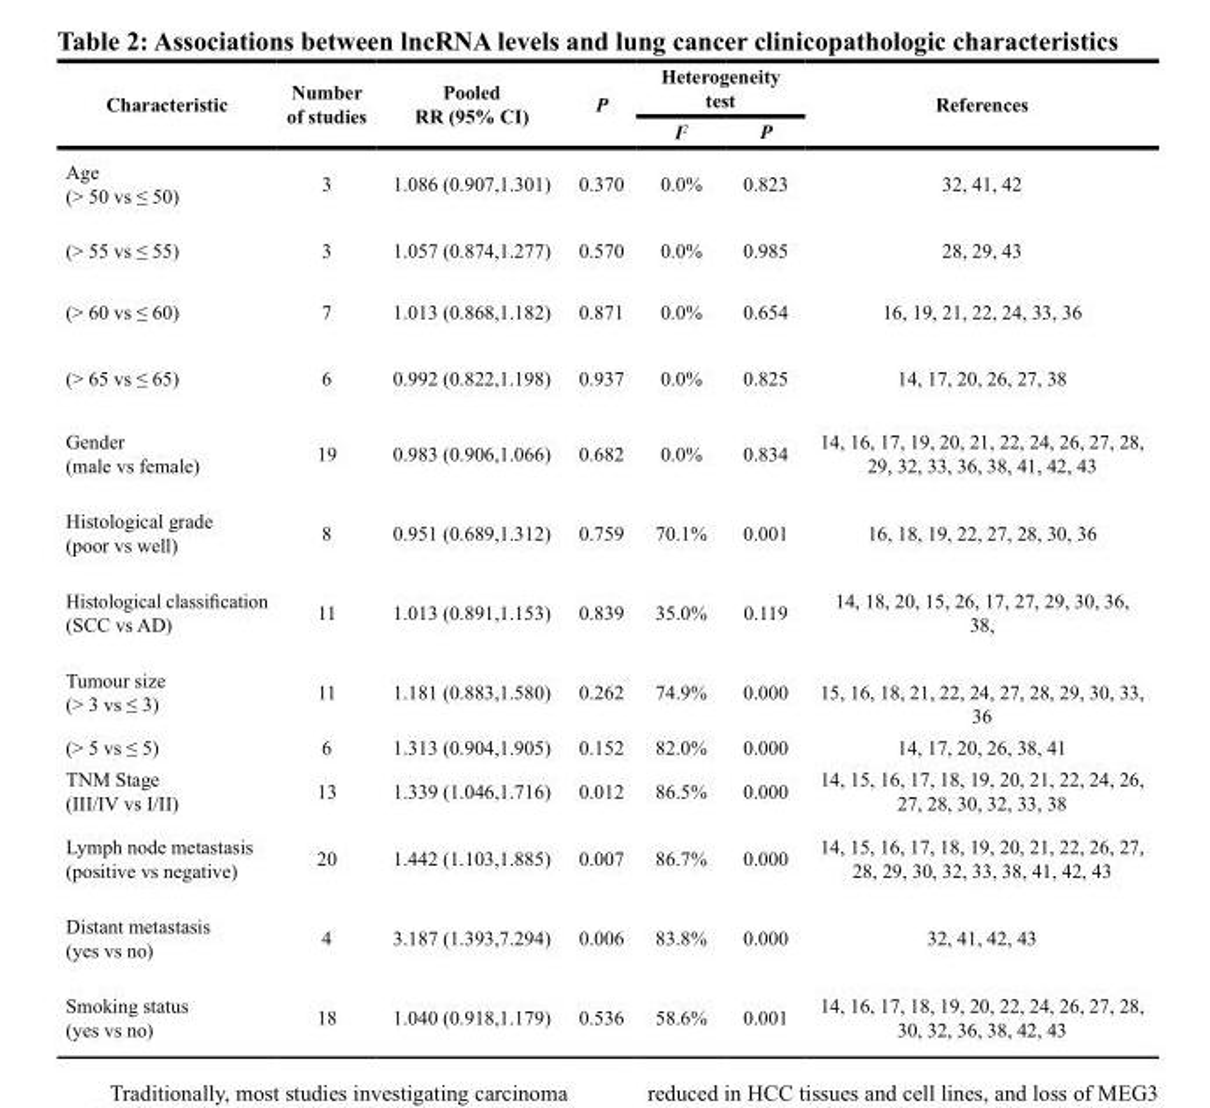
<table><thead><tr><td rowspan="2">Characteristic</td><td rowspan="2">Number of studies</td><td rowspan="2">Pooled RR (95% CI)</td><td rowspan="2">P</td><td colspan="2">Heterogeneity test</td><td rowspan="2">References</td></tr><tr><td>I<sup>2</sup></td><td>P</td></tr></thead><tbody><tr><td>Age (&gt; 50 vs ≤ 50)</td><td>3</td><td>1.086 (0.907,1.301)</td><td>0.370</td><td>0.0%</td><td>0.823</td><td>32, 41, 42</td></tr><tr><td>(&gt; 55 vs ≤ 55)</td><td>3</td><td>1.057 (0.874,1.277)</td><td>0.570</td><td>0.0%</td><td>0.985</td><td>28, 29, 43</td></tr><tr><td>(&gt; 60 vs ≤ 60)</td><td>7</td><td>1.013 (0.868,1.182)</td><td>0.871</td><td>0.0%</td><td>0.654</td><td>16, 19, 21, 22, 24, 33, 36</td></tr><tr><td>(&gt; 65 vs ≤ 65)</td><td>6</td><td>0.992 (0.822,1.198)</td><td>0.937</td><td>0.0%</td><td>0.825</td><td>14, 17, 20, 26, 27, 38</td></tr><tr><td>Gender (male vs female)</td><td>19</td><td>0.983 (0.906,1.066)</td><td>0.682</td><td>0.0%</td><td>0.834</td><td>14, 16, 17, 19, 20, 21, 22, 24, 26, 27, 28, 29, 32, 33, 36, 38, 41, 42, 43</td></tr><tr><td>Histological grade (poor vs well)</td><td>8</td><td>0.951 (0.689,1.312)</td><td>0.759</td><td>70.1%</td><td>0.001</td><td>16, 18, 19, 22, 27, 28, 30, 36</td></tr><tr><td>Histological classification (SCC vs AD)</td><td>11</td><td>1.013 (0.891,1.153)</td><td>0.839</td><td>35.0%</td><td>0.119</td><td>14, 18, 20, 15, 26, 17, 27, 29, 30, 36, 38,</td></tr><tr><td>Tumour size (&gt; 3 vs ≤ 3)</td><td>11</td><td>1.181 (0.883,1.580)</td><td>0.262</td><td>74.9%</td><td>0.000</td><td>15, 16, 18, 21, 22, 24, 27, 28, 29, 30, 33, 36</td></tr><tr><td>(&gt; 5 vs ≤ 5)</td><td>6</td><td>1.313 (0.904,1.905)</td><td>0.152</td><td>82.0%</td><td>0.000</td><td>14, 17, 20, 26, 38, 41</td></tr><tr><td>TNM Stage (III/IV vs I/II)</td><td>13</td><td>1.339 (1.046,1.716)</td><td>0.012</td><td>86.5%</td><td>0.000</td><td>14, 15, 16, 17, 18, 19, 20, 21, 22, 24, 26, 27, 28, 30, 32, 33, 38</td></tr><tr><td>Lymph node metastasis (positive vs negative)</td><td>20</td><td>1.442 (1.103,1.885)</td><td>0.007</td><td>86.7%</td><td>0.000</td><td>14, 15, 16, 17, 18, 19, 20, 21, 22, 26, 27, 28, 29, 30, 32, 33, 38, 41, 42, 43</td></tr><tr><td>Distant metastasis (yes vs no)</td><td>4</td><td>3.187 (1.393,7.294)</td><td>0.006</td><td>83.8%</td><td>0.000</td><td>32, 41, 42, 43</td></tr><tr><td>Smoking status (yes vs no)</td><td>18</td><td>1.040 (0.918,1.179)</td><td>0.536</td><td>58.6%</td><td>0.001</td><td>14, 16, 17, 18, 19, 20, 22, 24, 26, 27, 28, 30, 32, 36, 38, 42, 43</td></tr></tbody></table>